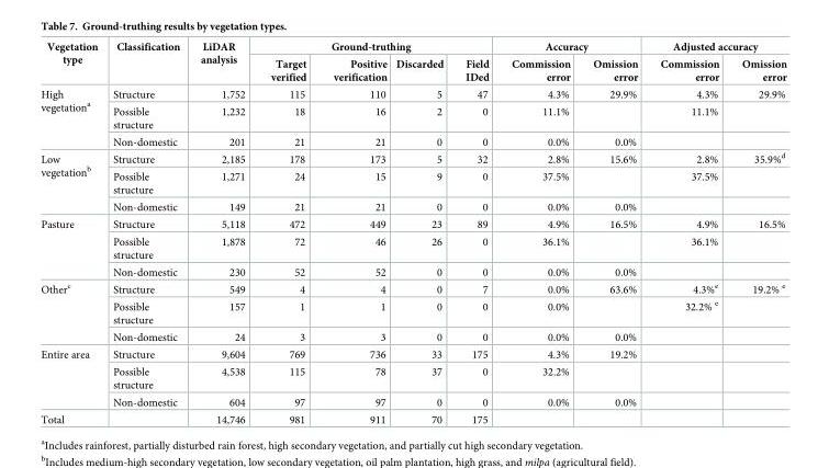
<table><thead><tr><td rowspan="2">Vegetation type</td><td rowspan="2">Classification</td><td rowspan="2">LiDAR analysis</td><td colspan="4">Ground-truthing</td><td colspan="2">Accuracy</td><td colspan="2">Adjusted accuracy</td></tr><tr><td>Target verified</td><td>Positive verification</td><td>Discarded</td><td>Field IDed</td><td>Commission error</td><td>Omission error</td><td>Commission error</td><td>Omission error</td></tr></thead><tbody><tr><td rowspan="3">High vegetation<sup>a</sup></td><td>Structure</td><td>1,752</td><td>115</td><td>110</td><td>5</td><td>47</td><td>4.3%</td><td>29.9%</td><td>4.3%</td><td>29.9%</td></tr><tr><td>Possible structure</td><td>1,232</td><td>18</td><td>16</td><td>2</td><td>0</td><td>11.1%</td><td></td><td>11.1%</td><td></td></tr><tr><td>Non-domestic</td><td>201</td><td>21</td><td>21</td><td>0</td><td>0</td><td>0.0%</td><td>0.0%</td><td></td><td></td></tr><tr><td rowspan="3">Low vegetation<sup>b</sup></td><td>Structure</td><td>2,185</td><td>178</td><td>173</td><td>5</td><td>32</td><td>2.8%</td><td>15.6%</td><td>2.8%</td><td>35.9%<sup>d</sup></td></tr><tr><td>Possible structure</td><td>1,271</td><td>24</td><td>15</td><td>9</td><td>0</td><td>37.5%</td><td></td><td>37.5%</td><td></td></tr><tr><td>Non-domestic</td><td>149</td><td>21</td><td>21</td><td>0</td><td>0</td><td>0.0%</td><td>0.0%</td><td></td><td></td></tr><tr><td rowspan="3">Pasture</td><td>Structure</td><td>5,118</td><td>472</td><td>449</td><td>23</td><td>89</td><td>4.9%</td><td>16.5%</td><td>4.9%</td><td>16.5%</td></tr><tr><td>Possible structure</td><td>1,878</td><td>72</td><td>46</td><td>26</td><td>0</td><td>36.1%</td><td></td><td>36.1%</td><td></td></tr><tr><td>Non-domestic</td><td>230</td><td>52</td><td>52</td><td>0</td><td>0</td><td>0.0%</td><td>0.0%</td><td></td><td></td></tr><tr><td rowspan="3">Other<sup>c</sup></td><td>Structure</td><td>549</td><td>4</td><td>4</td><td>0</td><td>7</td><td>0.0%</td><td>63.6%</td><td>4.3%<sup>e</sup></td><td>19.2% <sup>e</sup></td></tr><tr><td>Possible structure</td><td>157</td><td>1</td><td>1</td><td>0</td><td>0</td><td>0.0%</td><td></td><td>32.2% <sup>e</sup></td><td></td></tr><tr><td>Non-domestic</td><td>24</td><td>3</td><td>3</td><td>0</td><td>0</td><td>0.0%</td><td>0.0%</td><td></td><td></td></tr><tr><td rowspan="3">Entire area</td><td>Structure</td><td>9,604</td><td>769</td><td>736</td><td>33</td><td>175</td><td>4.3%</td><td>19.2%</td><td></td><td></td></tr><tr><td>Possible structure</td><td>4,538</td><td>115</td><td>78</td><td>37</td><td>0</td><td>32.2%</td><td></td><td></td><td></td></tr><tr><td>Non-domestic</td><td>604</td><td>97</td><td>97</td><td>0</td><td>0</td><td>0.0%</td><td>0.0%</td><td></td><td></td></tr><tr><td>Total</td><td></td><td>14,746</td><td>981</td><td>911</td><td>70</td><td>175</td><td></td><td></td><td></td><td></td></tr></tbody></table>